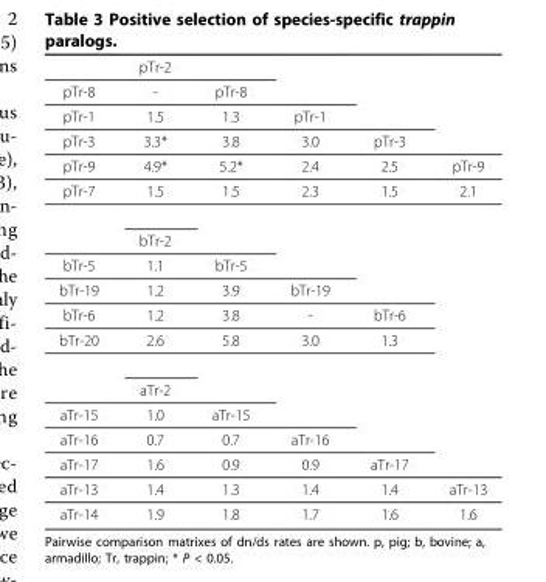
<table><thead><tr><td rowspan="4">pTr-8 pTr-1 pTr-3</td><td rowspan="4">pTr-2 - 1.5 3.3*</td><td rowspan="4">pTr-8 1.3 3.8</td><td rowspan="4">pTr-1 3.0</td><td rowspan="4">pTr-3</td><td rowspan="4"></td></tr><tr></tr><tr></tr><tr></tr></thead><tbody><tr><td>pTr-9</td><td>4.9*</td><td>5.2*</td><td>2.4</td><td>2.5</td><td>pTr-9</td></tr><tr><td rowspan="2">pTr-7</td><td>1.5</td><td>1.5</td><td>2.3</td><td>1.5</td><td>2.1</td></tr><tr><td>bTr-2</td><td></td><td></td><td></td><td></td></tr><tr><td>bTr-5</td><td>1.1</td><td>bTr-5</td><td></td><td></td><td></td></tr><tr><td>bTr-19</td><td>1.2</td><td>3.9</td><td>bTr-19</td><td></td><td></td></tr><tr><td>bTr-6</td><td>1.2</td><td>3.8</td><td>-</td><td>bTr-6</td><td></td></tr><tr><td rowspan="2">bTr-20</td><td>2.6</td><td>5.8</td><td>3.0</td><td>1.3</td><td></td></tr><tr><td>aTr-2</td><td></td><td></td><td></td><td></td></tr><tr><td>aTr-15</td><td>1.0</td><td>aTr-15</td><td></td><td></td><td></td></tr><tr><td>aTr-16</td><td>0.7</td><td>0.7</td><td>aTr-16</td><td></td><td></td></tr><tr><td>aTr-17</td><td>1.6</td><td>0.9</td><td>0.9</td><td>aTr-17</td><td></td></tr><tr><td>aTr-13</td><td>1.4</td><td>1.3</td><td>1.4</td><td>1.4</td><td>aTr-13</td></tr><tr><td>aTr-14</td><td>1.9</td><td>1.8</td><td>1.7</td><td>1.6</td><td>1.6</td></tr></tbody></table>